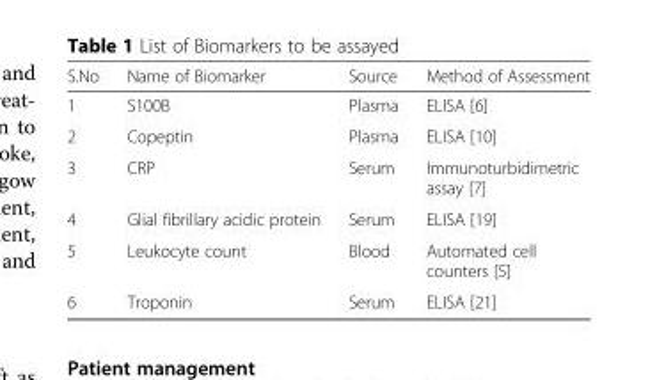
<table><thead><tr><td>S.No</td><td>Name of Biomarker</td><td>Source</td><td>Method of Assessment</td></tr></thead><tbody><tr><td>1</td><td>S100B</td><td>Plasma</td><td>ELISA [6]</td></tr><tr><td>2</td><td>Copeptin</td><td>Plasma</td><td>ELISA [10]</td></tr><tr><td>3</td><td>CRP</td><td>Serum</td><td>Immunoturbidimetric assay [7]</td></tr><tr><td>4</td><td>Glial fibrillary acidic protein</td><td>Serum</td><td>ELISA [19]</td></tr><tr><td>5</td><td>Leukocyte count</td><td>Blood</td><td>Automated cell counters [5]</td></tr><tr><td>6</td><td>Troponin</td><td>Serum</td><td>ELISA [21]</td></tr></tbody></table>